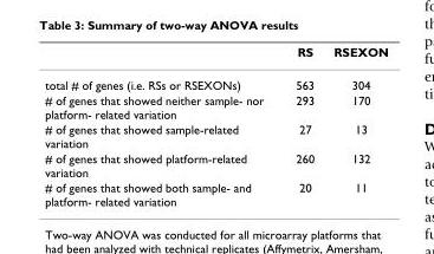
<table><thead><tr><td></td><td>RS</td><td>RSEXON</td></tr></thead><tbody><tr><td>total # of genes (i.e. RSs or RSEXONs)</td><td>563</td><td>304</td></tr><tr><td># of genes that showed neither sample- nor platform- related variation</td><td>293</td><td>170</td></tr><tr><td># of genes that showed sample-related variation</td><td>27</td><td>13</td></tr><tr><td># of genes that showed platform-related variation</td><td>260</td><td>132</td></tr><tr><td># of genes that showed both sample- and platform- related variation</td><td>20</td><td>11</td></tr></tbody></table>